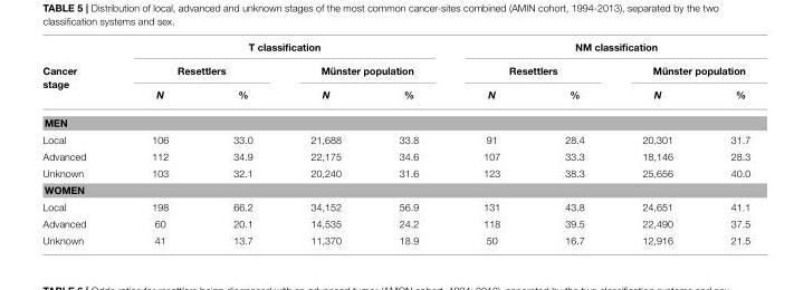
<table><thead><tr><td rowspan="3">Cancer stage</td><td colspan="4">T classification</td><td colspan="4">NM classification</td></tr><tr><td colspan="2">Resettlers</td><td colspan="2">Münster population</td><td colspan="2">Resettlers</td><td colspan="2">Münster population</td></tr><tr><td>N</td><td>%</td><td>N</td><td>%</td><td>N</td><td>%</td><td>N</td><td>%</td></tr></thead><tbody><tr><td colspan="9">MEN</td></tr><tr><td>Local</td><td>106</td><td>33.0</td><td>21,688</td><td>33.8</td><td>91</td><td>28.4</td><td>20,301</td><td>31.7</td></tr><tr><td>Advanced</td><td>112</td><td>34.9</td><td>22,175</td><td>34.6</td><td>107</td><td>33.3</td><td>18,146</td><td>28.3</td></tr><tr><td>Unknown</td><td>103</td><td>32.1</td><td>20,240</td><td>31.6</td><td>123</td><td>38.3</td><td>25,656</td><td>40.0</td></tr><tr><td colspan="9">WOMEN</td></tr><tr><td>Local</td><td>198</td><td>66.2</td><td>34,152</td><td>56.9</td><td>131</td><td>43.8</td><td>24,651</td><td>41.1</td></tr><tr><td>Advanced</td><td>60</td><td>20.1</td><td>14,535</td><td>24.2</td><td>118</td><td>39.5</td><td>22,490</td><td>37.5</td></tr><tr><td>Unknown</td><td>41</td><td>13.7</td><td>11,370</td><td>18.9</td><td>50</td><td>16.7</td><td>12,916</td><td>21.5</td></tr></tbody></table>